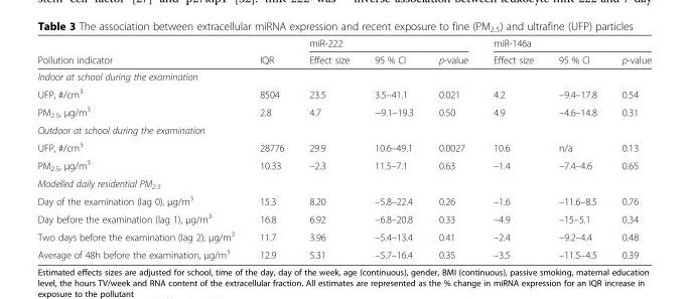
<table><thead><tr><td rowspan="2">Pollution indicator</td><td rowspan="2">IQR</td><td colspan="3">miR-222</td><td colspan="3">miR-146a</td></tr><tr><td>Effect size</td><td>95 % CI</td><td>p-value</td><td>Effect size</td><td>95 % CI</td><td>p-value</td></tr></thead><tbody><tr><td colspan="8">Indoor at school during the examination</td></tr><tr><td>UFP, #/cm<sup>3</sup></td><td>8504</td><td>23.5</td><td>3.5–41.1</td><td>0.021</td><td>4.2</td><td>–9.4–17.8</td><td>0.54</td></tr><tr><td>PM<sub>2.5</sub>, μg/m<sup>3</sup></td><td>2.8</td><td>4.7</td><td>−9.1–19.3</td><td>0.50</td><td>4.9</td><td>–4.6–14.8</td><td>0.31</td></tr><tr><td colspan="8">Outdoor at school during the examination</td></tr><tr><td>UFP, #/cm<sup>3</sup></td><td>28776</td><td>29.9</td><td>10.6–49.1</td><td>0.0027</td><td>10.6</td><td>n/a</td><td>0.13</td></tr><tr><td>PM<sub>2.5</sub>, μg/m<sup>3</sup></td><td>10.33</td><td>–2.3</td><td>11.5–7.1</td><td>0.63</td><td>–1.4</td><td>–7.4–4.6</td><td>0.65</td></tr><tr><td colspan="8">Modelled daily residential PM<sub>2.5</sub></td></tr><tr><td>Day of the examination (lag 0), μg/m<sup>3</sup></td><td>15.3</td><td>8.20</td><td>–5.8–22.4</td><td>0.26</td><td>–1.6</td><td>–11.6–8.5</td><td>0.76</td></tr><tr><td>Day before the examination (lag 1), μg/m<sup>3</sup></td><td>16.8</td><td>6.92</td><td>–6.8–20.8</td><td>0.33</td><td>–4.9</td><td>–15–5.1</td><td>0.34</td></tr><tr><td>Two days before the examination (lag 2), μg/m<sup>3</sup></td><td>11.7</td><td>3.96</td><td>–5.4–13.4</td><td>0.41</td><td>–2.4</td><td>–9.2–4.4</td><td>0.48</td></tr><tr><td>Average of 48h before the examination, μg/m<sup>3</sup></td><td>12.9</td><td>5.31</td><td>–5.7–16.4</td><td>0.35</td><td>–3.5</td><td>–11.5–4.5</td><td>0.39</td></tr></tbody></table>